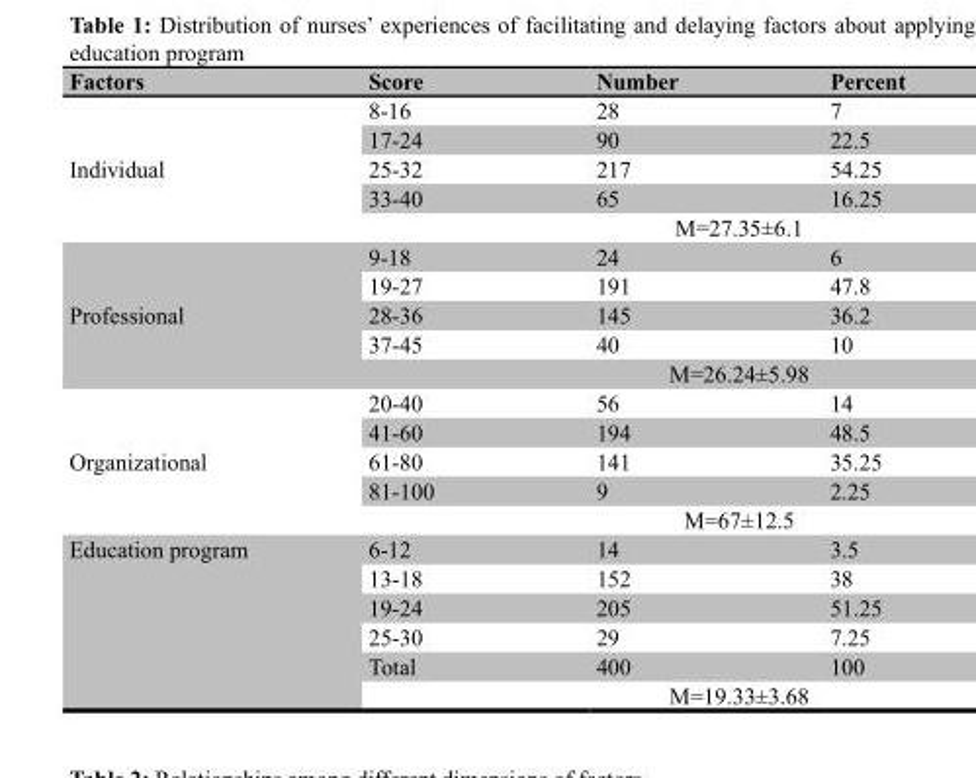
<table><thead><tr><td>Factors</td><td>Score</td><td>Number</td><td>Percent</td></tr></thead><tbody><tr><td rowspan="5">Individual</td><td>8-16</td><td>28</td><td>7</td></tr><tr><td>17-24</td><td>90</td><td>22.5</td></tr><tr><td>25-32</td><td>217</td><td>54.25</td></tr><tr><td>33-40</td><td>65</td><td>16.25</td></tr><tr><td colspan="3">M=27.35±6.1</td></tr><tr><td rowspan="5">Professional</td><td>9-18</td><td>24</td><td>6</td></tr><tr><td>19-27</td><td>191</td><td>47.8</td></tr><tr><td>28-36</td><td>145</td><td>36.2</td></tr><tr><td>37-45</td><td>40</td><td>10</td></tr><tr><td colspan="3">M=26.24±5.98</td></tr><tr><td rowspan="5">Organizational</td><td>20-40</td><td>56</td><td>14</td></tr><tr><td>41-60</td><td>194</td><td>48.5</td></tr><tr><td>61-80</td><td>141</td><td>35.25</td></tr><tr><td>81-100</td><td>9</td><td>2.25</td></tr><tr><td colspan="3">M=67±12.5</td></tr><tr><td rowspan="6">Education program</td><td>6-12</td><td>14</td><td>3.5</td></tr><tr><td>13-18</td><td>152</td><td>38</td></tr><tr><td>19-24</td><td>205</td><td>51.25</td></tr><tr><td>25-30</td><td>29</td><td>7.25</td></tr><tr><td>Total</td><td>400</td><td>100</td></tr><tr><td colspan="3">M=19.33±3.68</td></tr></tbody></table>